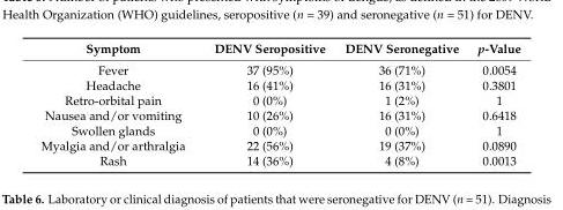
<table><thead><tr><td>Symptom</td><td>DENV Seropositive</td><td>DENV Seronegative</td><td>p-Value</td></tr></thead><tbody><tr><td>Fever</td><td>37 (95%)</td><td>36 (71%)</td><td>0.0054</td></tr><tr><td>Headache</td><td>16 (41%)</td><td>16 (31%)</td><td>0.3801</td></tr><tr><td>Retro-orbital pain</td><td>0 (0%)</td><td>1 (2%)</td><td>1</td></tr><tr><td>Nausea and/or vomiting</td><td>10 (26%)</td><td>16 (31%)</td><td>0.6418</td></tr><tr><td>Swollen glands</td><td>0 (0%)</td><td>0 (0%)</td><td>1</td></tr><tr><td>Myalgia and/or arthralgia</td><td>22 (56%)</td><td>19 (37%)</td><td>0.0890</td></tr><tr><td>Rash</td><td>14 (36%)</td><td>4 (8%)</td><td>0.0013</td></tr></tbody></table>